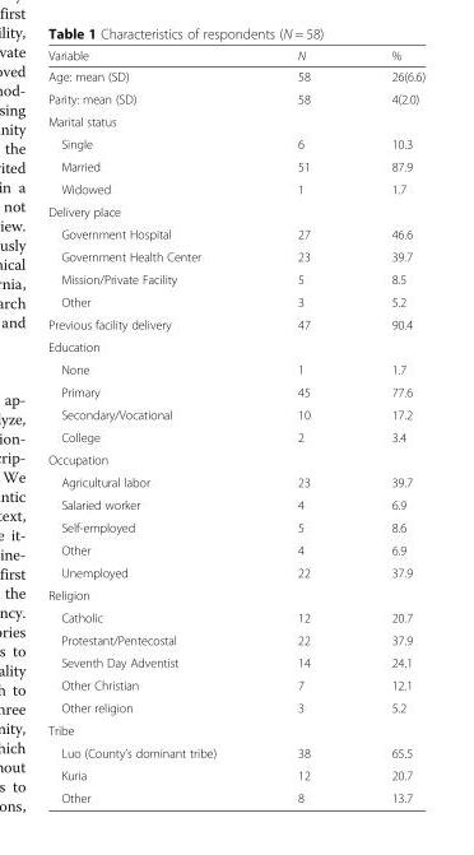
<table><thead><tr><td>Variable</td><td>N</td><td>%</td></tr></thead><tbody><tr><td>Age: mean (SD)</td><td>58</td><td>26(6.6)</td></tr><tr><td>Parity: mean (SD)</td><td>58</td><td>4(2.0)</td></tr><tr><td colspan="3">Marital status</td></tr><tr><td>Single</td><td>6</td><td>10.3</td></tr><tr><td>Married</td><td>51</td><td>87.9</td></tr><tr><td>Widowed</td><td>1</td><td>1.7</td></tr><tr><td colspan="3">Delivery place</td></tr><tr><td>Government Hospital</td><td>27</td><td>46.6</td></tr><tr><td>Government Health Center</td><td>23</td><td>39.7</td></tr><tr><td>Mission/Private Facility</td><td>5</td><td>8.5</td></tr><tr><td>Other</td><td>3</td><td>5.2</td></tr><tr><td>Previous facility delivery</td><td>47</td><td>90.4</td></tr><tr><td colspan="3">Education</td></tr><tr><td>None</td><td>1</td><td>1.7</td></tr><tr><td>Primary</td><td>45</td><td>77.6</td></tr><tr><td>Secondary/Vocational</td><td>10</td><td>17.2</td></tr><tr><td>College</td><td>2</td><td>3.4</td></tr><tr><td colspan="3">Occupation</td></tr><tr><td>Agricultural labor</td><td>23</td><td>39.7</td></tr><tr><td>Salaried worker</td><td>4</td><td>6.9</td></tr><tr><td>Self-employed</td><td>5</td><td>8.6</td></tr><tr><td>Other</td><td>4</td><td>6.9</td></tr><tr><td>Unemployed</td><td>22</td><td>37.9</td></tr><tr><td colspan="3">Religion</td></tr><tr><td>Catholic</td><td>12</td><td>20.7</td></tr><tr><td>Protestant/Pentecostal</td><td>22</td><td>37.9</td></tr><tr><td>Seventh Day Adventist</td><td>14</td><td>24.1</td></tr><tr><td>Other Christian</td><td>7</td><td>12.1</td></tr><tr><td>Other religion</td><td>3</td><td>5.2</td></tr><tr><td colspan="3">Tribe</td></tr><tr><td>Luo (County’s dominant tribe)</td><td>38</td><td>65.5</td></tr><tr><td>Kuria</td><td>12</td><td>20.7</td></tr><tr><td>Other</td><td>8</td><td>13.7</td></tr></tbody></table>